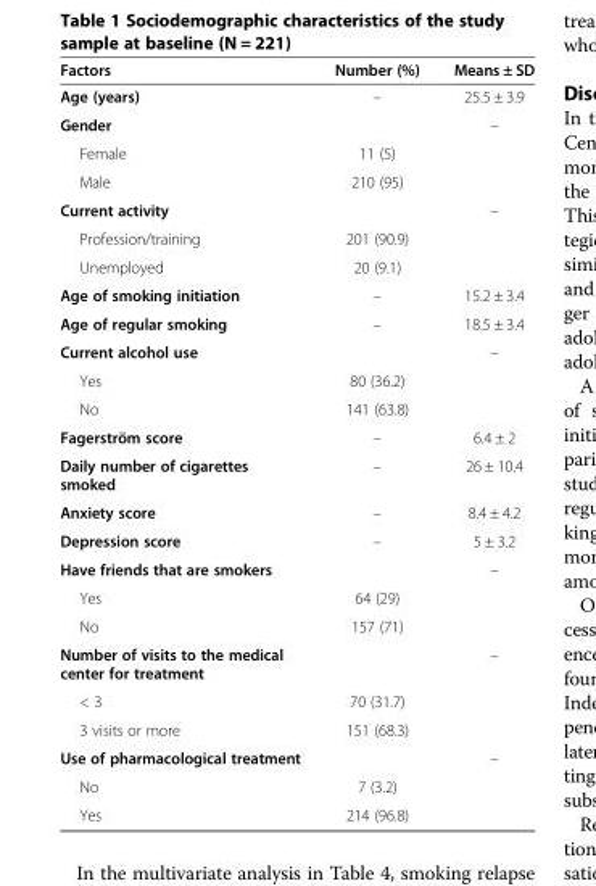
<table><thead><tr><td>Factors</td><td>Number (%)</td><td>Means ± SD</td></tr></thead><tbody><tr><td>Age (years)</td><td>–</td><td>25.5 ± 3.9</td></tr><tr><td>Gender</td><td></td><td>–</td></tr><tr><td>Female</td><td>11 (5)</td><td></td></tr><tr><td>Male</td><td>210 (95)</td><td></td></tr><tr><td>Current activity</td><td></td><td>–</td></tr><tr><td>Profession/training</td><td>201 (90.9)</td><td></td></tr><tr><td>Unemployed</td><td>20 (9.1)</td><td></td></tr><tr><td>Age of smoking initiation</td><td>–</td><td>15.2 ± 3.4</td></tr><tr><td>Age of regular smoking</td><td>–</td><td>18.5 ± 3.4</td></tr><tr><td>Current alcohol use</td><td></td><td>–</td></tr><tr><td>Yes</td><td>80 (36.2)</td><td></td></tr><tr><td>No</td><td>141 (63.8)</td><td></td></tr><tr><td>Fagerström score</td><td>–</td><td>6.4 ± 2</td></tr><tr><td>Daily number of cigarettes smoked</td><td>–</td><td>26 ± 10.4</td></tr><tr><td>Anxiety score</td><td>–</td><td>8.4 ± 4.2</td></tr><tr><td>Depression score</td><td>–</td><td>5 ± 3.2</td></tr><tr><td>Have friends that are smokers</td><td></td><td>–</td></tr><tr><td>Yes</td><td>64 (29)</td><td></td></tr><tr><td>No</td><td>157 (71)</td><td></td></tr><tr><td>Number of visits to the medical center for treatment</td><td></td><td>–</td></tr><tr><td>&lt; 3</td><td>70 (31.7)</td><td></td></tr><tr><td>3 visits or more</td><td>151 (68.3)</td><td></td></tr><tr><td>Use of pharmacological treatment</td><td></td><td>–</td></tr><tr><td>No</td><td>7 (3.2)</td><td></td></tr><tr><td>Yes</td><td>214 (96.8)</td><td></td></tr></tbody></table>